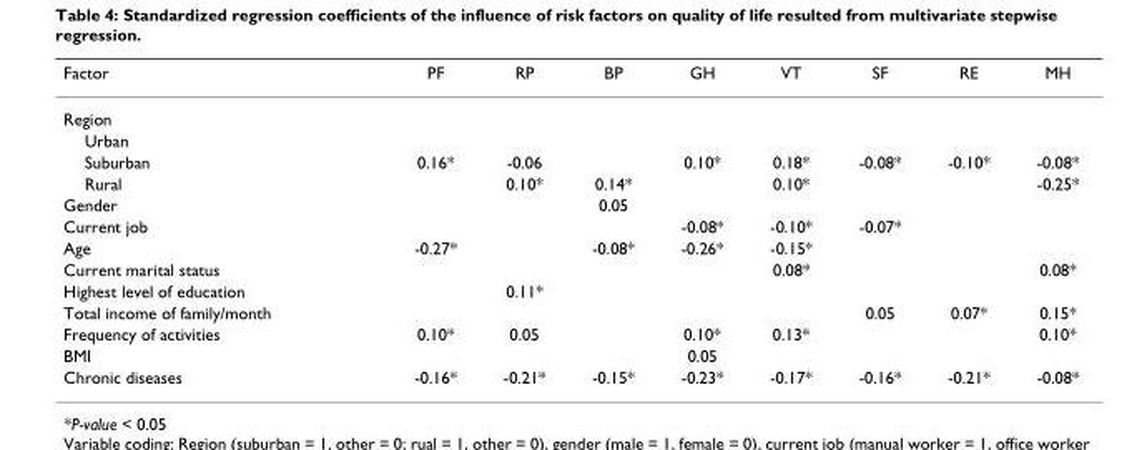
<table><thead><tr><td>Factor</td><td>PF</td><td>RP</td><td>BP</td><td>GH</td><td>VT</td><td>SF</td><td>RE</td><td>MH</td></tr></thead><tbody><tr><td colspan="9">Region</td></tr><tr><td colspan="9">Urban</td></tr><tr><td>Suburban</td><td>0.16*</td><td>-0.06</td><td></td><td>0.10*</td><td>0.18*</td><td>-0.08*</td><td>-0.10*</td><td>-0.08*</td></tr><tr><td>Rural</td><td></td><td>0.10*</td><td>0.14*</td><td></td><td>0.10*</td><td></td><td></td><td>-0.25*</td></tr><tr><td>Gender</td><td></td><td></td><td>0.05</td><td></td><td></td><td></td><td></td><td></td></tr><tr><td>Current job</td><td></td><td></td><td></td><td>-0.08*</td><td>-0.10*</td><td>-0.07*</td><td></td><td></td></tr><tr><td>Age</td><td>-0.27*</td><td></td><td>-0.08*</td><td>-0.26*</td><td>-0.15*</td><td></td><td></td><td></td></tr><tr><td>Current marital status</td><td></td><td></td><td></td><td></td><td>0.08*</td><td></td><td></td><td>0.08*</td></tr><tr><td>Highest level of education</td><td></td><td>0.11*</td><td></td><td></td><td></td><td></td><td></td><td></td></tr><tr><td>Total income of family/month</td><td></td><td></td><td></td><td></td><td></td><td>0.05</td><td>0.07*</td><td>0.15*</td></tr><tr><td>Frequency of activities</td><td>0.10*</td><td>0.05</td><td></td><td>0.10*</td><td>0.13*</td><td></td><td></td><td>0.10*</td></tr><tr><td>BMI</td><td></td><td></td><td></td><td>0.05</td><td></td><td></td><td></td><td></td></tr><tr><td>Chronic diseases</td><td>-0.16*</td><td>-0.21*</td><td>-0.15*</td><td>-0.23*</td><td>-0.17*</td><td>-0.16*</td><td>-0.21*</td><td>-0.08*</td></tr></tbody></table>